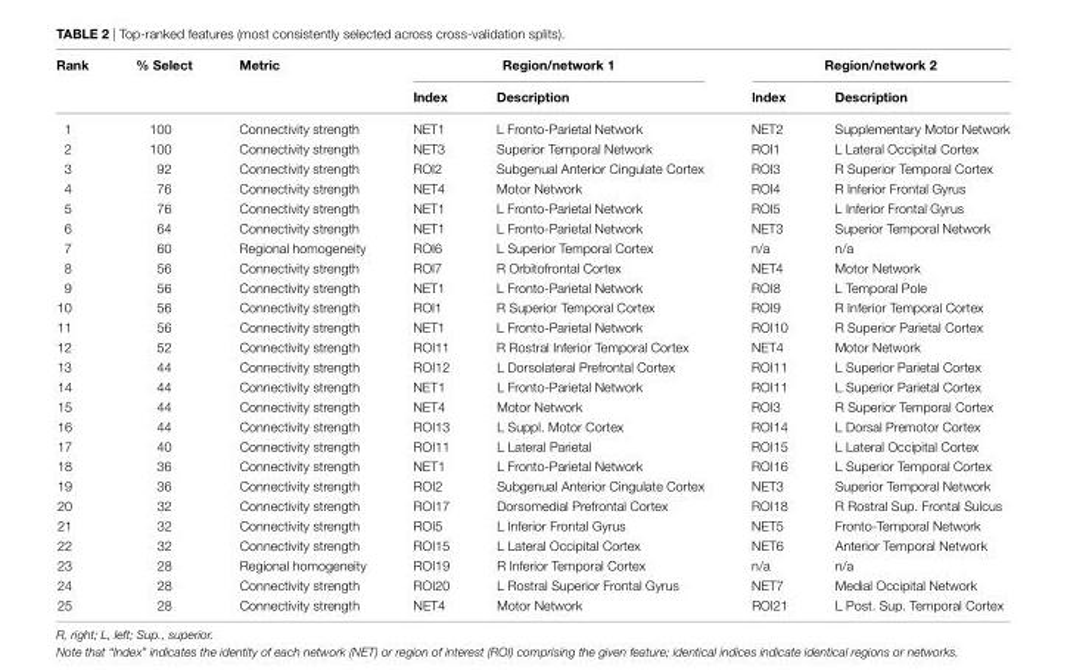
<table><thead><tr><td rowspan="2">rank</td><td rowspan="2">% select</td><td rowspan="2">Metric</td><td colspan="2">region/network 1</td><td colspan="2">region/network 2</td></tr><tr><td>index</td><td>Description</td><td>index</td><td>Description</td></tr></thead><tbody><tr><td>1</td><td>100</td><td>Connectivity strength</td><td>NET1</td><td>L Fronto-Parietal Network</td><td>NET2</td><td>Supplementary Motor Network</td></tr><tr><td>2</td><td>100</td><td>Connectivity strength</td><td>NET3</td><td>Superior Temporal Network</td><td>ROI1</td><td>L Lateral Occipital Cortex</td></tr><tr><td>3</td><td>92</td><td>Connectivity strength</td><td>ROI2</td><td>Subgenual Anterior Cingulate Cortex</td><td>ROI3</td><td>R Superior Temporal Cortex</td></tr><tr><td>4</td><td>76</td><td>Connectivity strength</td><td>NET4</td><td>Motor Network</td><td>ROI4</td><td>R Inferior Frontal Gyrus</td></tr><tr><td>5</td><td>76</td><td>Connectivity strength</td><td>NET1</td><td>L Fronto-Parietal Network</td><td>ROI5</td><td>L Inferior Frontal Gyrus</td></tr><tr><td>6</td><td>64</td><td>Connectivity strength</td><td>NET1</td><td>L Fronto-Parietal Network</td><td>NET3</td><td>Superior Temporal Network</td></tr><tr><td>7</td><td>60</td><td>Regional homogeneity</td><td>ROI6</td><td>L Superior Temporal Cortex</td><td>n/a</td><td>n/a</td></tr><tr><td>8</td><td>56</td><td>Connectivity strength</td><td>ROI7</td><td>R Orbitofrontal Cortex</td><td>NET4</td><td>Motor Network</td></tr><tr><td>9</td><td>56</td><td>Connectivity strength</td><td>NET1</td><td>L Fronto-Parietal Network</td><td>ROI8</td><td>L Temporal Pole</td></tr><tr><td>10</td><td>56</td><td>Connectivity strength</td><td>ROI1</td><td>R Superior Temporal Cortex</td><td>ROI9</td><td>R Inferior Temporal Cortex</td></tr><tr><td>11</td><td>56</td><td>Connectivity strength</td><td>NET1</td><td>L Fronto-Parietal Network</td><td>ROI10</td><td>R Superior Parietal Cortex</td></tr><tr><td>12</td><td>52</td><td>Connectivity strength</td><td>ROI11</td><td>R Rostral Inferior Temporal Cortex</td><td>NET4</td><td>Motor Network</td></tr><tr><td>13</td><td>44</td><td>Connectivity strength</td><td>ROI12</td><td>L Dorsolateral Prefrontal Cortex</td><td>ROI11</td><td>L Superior Parietal Cortex</td></tr><tr><td>14</td><td>44</td><td>Connectivity strength</td><td>NET1</td><td>L Fronto-Parietal Network</td><td>ROI11</td><td>L Superior Parietal Cortex</td></tr><tr><td>15</td><td>44</td><td>Connectivity strength</td><td>NET4</td><td>Motor Network</td><td>ROI3</td><td>R Superior Temporal Cortex</td></tr><tr><td>16</td><td>44</td><td>Connectivity strength</td><td>ROI13</td><td>L Suppl. Motor Cortex</td><td>ROI14</td><td>L Dorsal Premotor Cortex</td></tr><tr><td>17</td><td>40</td><td>Connectivity strength</td><td>ROI11</td><td>L Lateral Parietal</td><td>ROI15</td><td>L Lateral Occipital Cortex</td></tr><tr><td>18</td><td>36</td><td>Connectivity strength</td><td>NET1</td><td>L Fronto-Parietal Network</td><td>ROI16</td><td>L Superior Temporal Cortex</td></tr><tr><td>19</td><td>36</td><td>Connectivity strength</td><td>ROI2</td><td>Subgenual Anterior Cingulate Cortex</td><td>NET3</td><td>Superior Temporal Network</td></tr><tr><td>20</td><td>32</td><td>Connectivity strength</td><td>ROI17</td><td>Dorsomedial Prefrontal Cortex</td><td>ROI18</td><td>R Rostral Sup. Frontal Sulcus</td></tr><tr><td>21</td><td>32</td><td>Connectivity strength</td><td>ROI5</td><td>L Inferior Frontal Gyrus</td><td>NET5</td><td>Fronto-Temporal Network</td></tr><tr><td>22</td><td>32</td><td>Connectivity strength</td><td>ROI15</td><td>L Lateral Occipital Cortex</td><td>NET6</td><td>Anterior Temporal Network</td></tr><tr><td>23</td><td>28</td><td>Regional homogeneity</td><td>ROI19</td><td>R Inferior Temporal Cortex</td><td>n/a</td><td>n/a</td></tr><tr><td>24</td><td>28</td><td>Connectivity strength</td><td>ROI20</td><td>L Rostral Superior Frontal Gyrus</td><td>NET7</td><td>Medial Occipital Network</td></tr><tr><td>25</td><td>28</td><td>Connectivity strength</td><td>NET4</td><td>Motor Network</td><td>ROI21</td><td>L Post. Sup. Temporal Cortex</td></tr></tbody></table>